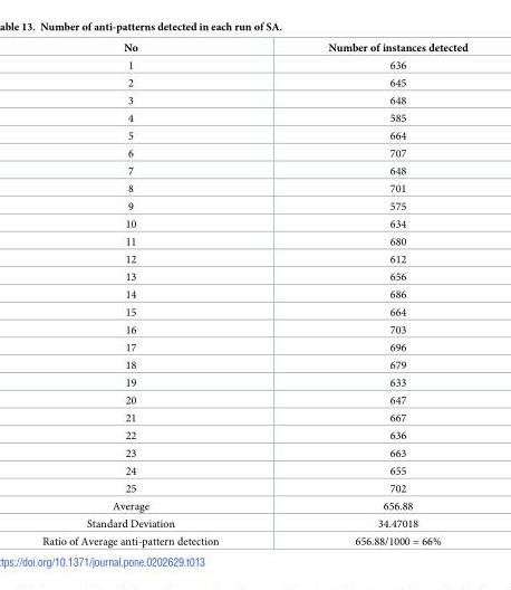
<table><thead><tr><td>No</td><td>Number of instances detected</td></tr></thead><tbody><tr><td>1</td><td>636</td></tr><tr><td>2</td><td>645</td></tr><tr><td>3</td><td>648</td></tr><tr><td>4</td><td>585</td></tr><tr><td>5</td><td>664</td></tr><tr><td>6</td><td>707</td></tr><tr><td>7</td><td>648</td></tr><tr><td>8</td><td>701</td></tr><tr><td>9</td><td>575</td></tr><tr><td>10</td><td>634</td></tr><tr><td>11</td><td>680</td></tr><tr><td>12</td><td>612</td></tr><tr><td>13</td><td>656</td></tr><tr><td>14</td><td>686</td></tr><tr><td>15</td><td>664</td></tr><tr><td>16</td><td>703</td></tr><tr><td>17</td><td>696</td></tr><tr><td>18</td><td>679</td></tr><tr><td>19</td><td>633</td></tr><tr><td>20</td><td>647</td></tr><tr><td>21</td><td>667</td></tr><tr><td>22</td><td>636</td></tr><tr><td>23</td><td>663</td></tr><tr><td>24</td><td>655</td></tr><tr><td>25</td><td>702</td></tr><tr><td>Average</td><td>656.88</td></tr><tr><td>Standard Deviation</td><td>34.47018</td></tr><tr><td>Ratio of Average anti-pattern detection</td><td>656.88/1000 = 66%</td></tr></tbody></table>